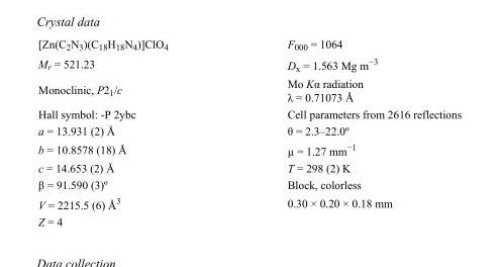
<table><tbody><tr><td>[Zn(C<sub>2</sub>N<sub>3</sub>)(C<sub>18</sub>H<sub>18</sub>N<sub>4</sub>)]ClO<sub>4</sub></td><td>F<sub>000</sub> = 1064</td></tr><tr><td>M<sub>r</sub> = 521.23</td><td>D<sub>x</sub> = 1.563 Mg m<sup>−3</sup></td></tr><tr><td>Monoclinic, P2<sub>1</sub>/c</td><td>Mo Kα radiation λ = 0.71073 Å</td></tr><tr><td>Hall symbol: -P 2ybc</td><td>Cell parameters from 2616 reflections</td></tr><tr><td>a = 13.931 (2) Å</td><td>θ = 2.3–22.0º</td></tr><tr><td>b = 10.8578 (18) Å</td><td>µ = 1.27 mm<sup>−1</sup></td></tr><tr><td>c = 14.653 (2) Å</td><td>T = 298 (2) K</td></tr><tr><td>β = 91.590 (3)º</td><td>Block, colorless</td></tr><tr><td>V = 2215.5 (6) Å<sup>3</sup></td><td>0.30 × 0.20 × 0.18 mm</td></tr><tr><td>Z = 4</td><td></td></tr></tbody></table>